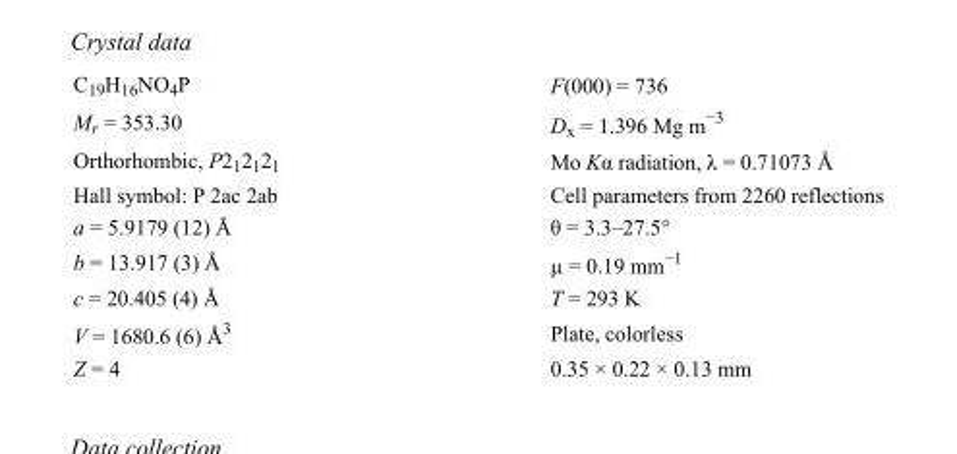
<table><tbody><tr><td>C<sub>19</sub>H<sub>16</sub>NO<sub>4</sub>P</td><td>F(000) = 736</td></tr><tr><td>M<sub>r</sub> = 353.30</td><td>D<sub>x</sub> = 1.396 Mg m<sup>−3</sup></td></tr><tr><td>Orthorhombic, P2<sub>1</sub>2<sub>1</sub>2<sub>1</sub></td><td>Mo Kα radiation, λ = 0.71073 Å</td></tr><tr><td>Hall symbol: P 2ac 2ab</td><td>Cell parameters from 2260 reflections</td></tr><tr><td>a = 5.9179 (12) Å</td><td>θ = 3.3–27.5°</td></tr><tr><td>b = 13.917 (3) Å</td><td>µ = 0.19 mm<sup>−1</sup></td></tr><tr><td>c = 20.405 (4) Å</td><td>T = 293 K</td></tr><tr><td>V = 1680.6 (6) Å<sup>3</sup></td><td>Plate, colorless</td></tr><tr><td>Z = 4</td><td>0.35 × 0.22 × 0.13 mm</td></tr></tbody></table>